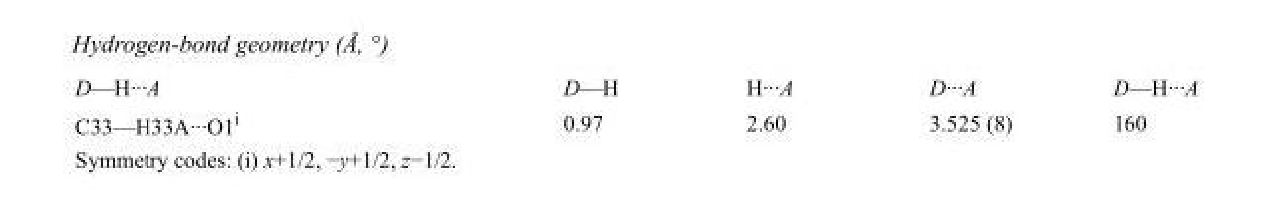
<table><tbody><tr><td>D—H···A</td><td>D—H</td><td>H···A</td><td>D···A</td><td>D—H···A</td></tr><tr><td>C33—H33A···O1<sup>i</sup></td><td>0.97</td><td>2.60</td><td>3.525 (8)</td><td>160</td></tr></tbody></table>